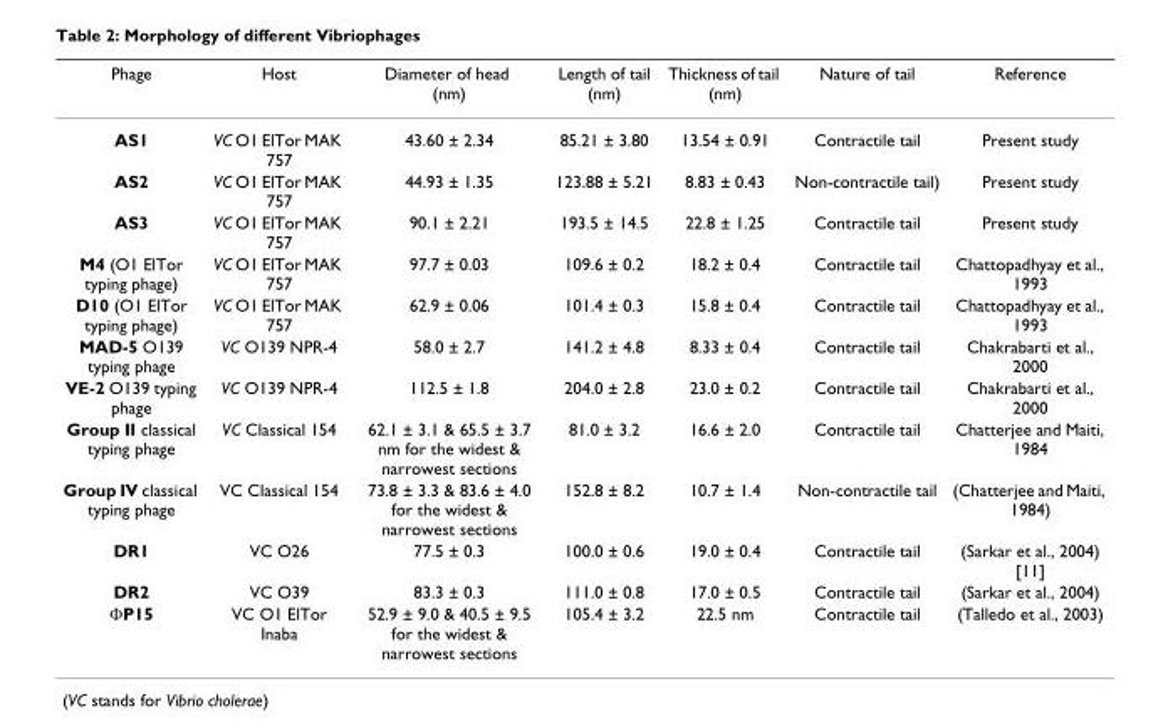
<table><thead><tr><td>Phage</td><td>Host</td><td>Diameter of head (nm)</td><td>Length of tail (nm)</td><td>Thickness of tail (nm)</td><td>Nature of tail</td><td>Reference</td></tr></thead><tbody><tr><td>AS1</td><td>VC O1 ElTor MAK 757</td><td>43.60 ± 2.34</td><td>85.21 ± 3.80</td><td>13.54 ± 0.91</td><td>Contractile tail</td><td>Present study</td></tr><tr><td>AS2</td><td>VC O1 ElTor MAK 757</td><td>44.93 ± 1.35</td><td>123.88 ± 5.21</td><td>8.83 ± 0.43</td><td>Non-contractile tail)</td><td>Present study</td></tr><tr><td>AS3</td><td>VC O1 ElTor MAK 757</td><td>90.1 ± 2.21</td><td>193.5 ± 14.5</td><td>22.8 ± 1.25</td><td>Contractile tail</td><td>Present study</td></tr><tr><td>M4 (O1 ElTor typing phage)</td><td>VC O1 ElTor MAK 757</td><td>97.7 ± 0.03</td><td>109.6 ± 0.2</td><td>18.2 ± 0.4</td><td>Contractile tail</td><td>Chattopadhyay et al., 1993</td></tr><tr><td>D10 (O1 ElTor typing phage)</td><td>VC O1 ElTor MAK 757</td><td>62.9 ± 0.06</td><td>101.4 ± 0.3</td><td>15.8 ± 0.4</td><td>Contractile tail</td><td>Chattopadhyay et al., 1993</td></tr><tr><td>MAD-5 O139 typing phage</td><td>VC O139 NPR-4</td><td>58.0 ± 2.7</td><td>141.2 ± 4.8</td><td>8.33 ± 0.4</td><td>Contractile tail</td><td>Chakrabarti et al., 2000</td></tr><tr><td>VE-2 O139 typing phage</td><td>VC O139 NPR-4</td><td>112.5 ± 1.8</td><td>204.0 ± 2.8</td><td>23.0 ± 0.2</td><td>Contractile tail</td><td>Chakrabarti et al., 2000</td></tr><tr><td>Group II classical typing phage</td><td>VC Classical 154</td><td>62.1 ± 3.1 &amp; 65.5 ± 3.7 nm for the widest &amp; narrowest sections</td><td>81.0 ± 3.2</td><td>16.6 ± 2.0</td><td>Contractile tail</td><td>Chatterjee and Maiti, 1984</td></tr><tr><td>Group IV classical typing phage</td><td>VC Classical 154</td><td>73.8 ± 3.3 &amp; 83.6 ± 4.0 for the widest &amp; narrowest sections</td><td>152.8 ± 8.2</td><td>10.7 ± 1.4</td><td>Non-contractile tail</td><td>(Chatterjee and Maiti, 1984)</td></tr><tr><td>DR1</td><td>VC O26</td><td>77.5 ± 0.3</td><td>100.0 ± 0.6</td><td>19.0 ± 0.4</td><td>Contractile tail</td><td>(Sarkar et al., 2004) [11]</td></tr><tr><td>DR2</td><td>VC O39</td><td>83.3 ± 0.3</td><td>111.0 ± 0.8</td><td>17.0 ± 0.5</td><td>Contractile tail</td><td>(Sarkar et al., 2004)</td></tr><tr><td>ΦP15</td><td>VC O1 ElTor Inaba</td><td>52.9 ± 9.0 &amp; 40.5 ± 9.5 for the widest &amp; narrowest sections</td><td>105.4 ± 3.2</td><td>22.5 nm</td><td>Contractile tail</td><td>(Talledo et al., 2003)</td></tr></tbody></table>